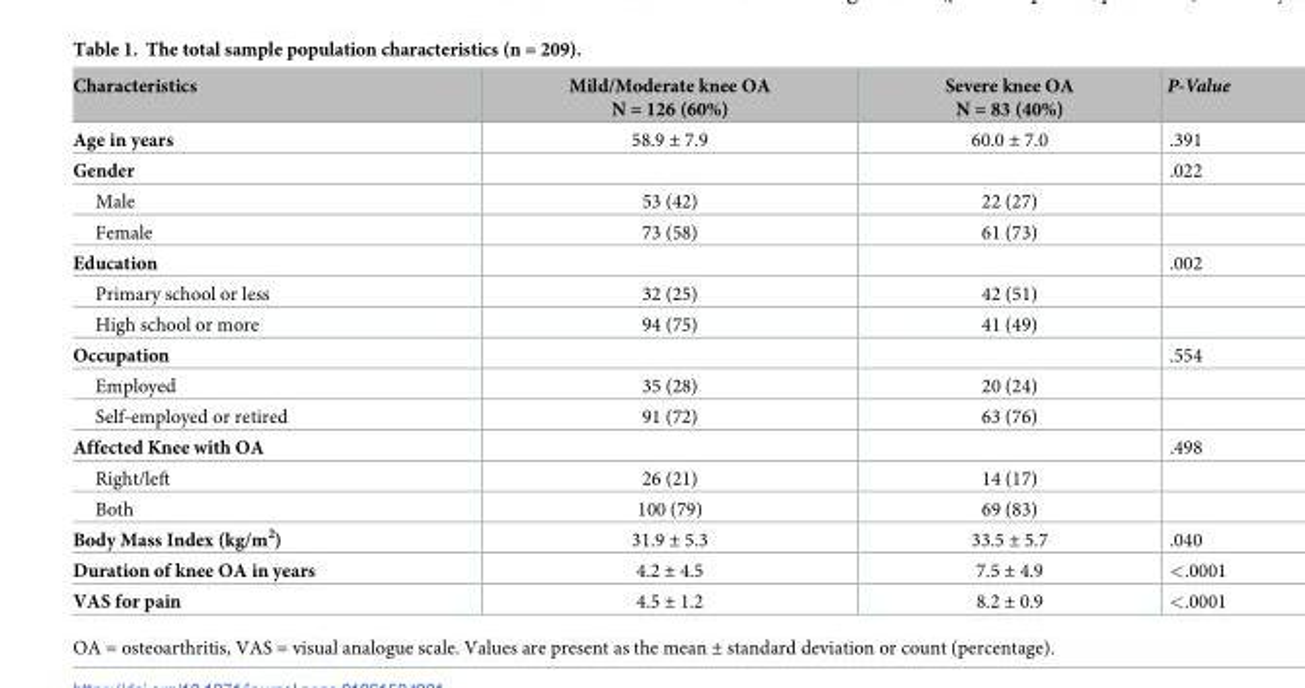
<table><thead><tr><td>Characteristics</td><td>Mild/Moderate knee OA N = 126 (60%)</td><td>Severe knee OA N = 83 (40%)</td><td>P-Value</td></tr></thead><tbody><tr><td>Age in years</td><td>58.9 ± 7.9</td><td>60.0 ± 7.0</td><td>.391</td></tr><tr><td>Gender</td><td></td><td></td><td>.022</td></tr><tr><td>Male</td><td>53 (42)</td><td>22 (27)</td><td></td></tr><tr><td>Female</td><td>73 (58)</td><td>61 (73)</td><td></td></tr><tr><td>Education</td><td></td><td></td><td>.002</td></tr><tr><td>Primary school or less</td><td>32 (25)</td><td>42 (51)</td><td></td></tr><tr><td>High school or more</td><td>94 (75)</td><td>41 (49)</td><td></td></tr><tr><td>Occupation</td><td></td><td></td><td>.554</td></tr><tr><td>Employed</td><td>35 (28)</td><td>20 (24)</td><td></td></tr><tr><td>Self-employed or retired</td><td>91 (72)</td><td>63 (76)</td><td></td></tr><tr><td>Affected Knee with OA</td><td></td><td></td><td>.498</td></tr><tr><td>Right/left</td><td>26 (21)</td><td>14 (17)</td><td></td></tr><tr><td>Both</td><td>100 (79)</td><td>69 (83)</td><td></td></tr><tr><td>Body Mass Index (kg/m<sup>2</sup>)</td><td>31.9 ± 5.3</td><td>33.5 ± 5.7</td><td>.040</td></tr><tr><td>Duration of knee OA in years</td><td>4.2 ± 4.5</td><td>7.5 ± 4.9</td><td>&lt;.0001</td></tr><tr><td>VAS for pain</td><td>4.5 ± 1.2</td><td>8.2 ± 0.9</td><td>&lt;.0001</td></tr></tbody></table>